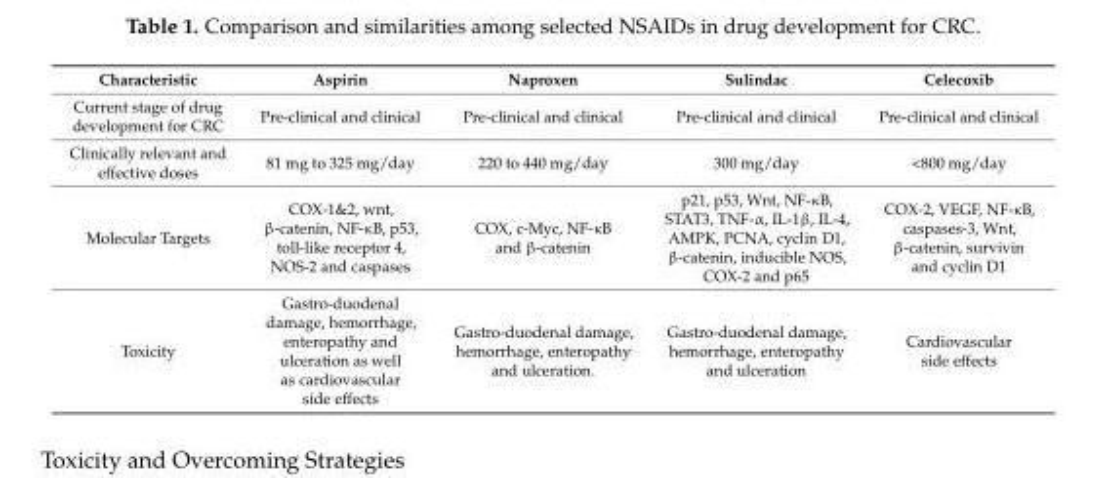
<table><thead><tr><td>Characteristic</td><td>Aspirin</td><td>Naproxen</td><td>Sulindac</td><td>Celecoxib</td></tr></thead><tbody><tr><td>Current stage of drug development for CRC</td><td>Pre-clinical and clinical</td><td>Pre-clinical and clinical</td><td>Pre-clinical and clinical</td><td>Pre-clinical and clinical</td></tr><tr><td>Clinically relevant and effective doses</td><td>81 mg to 325 mg/day</td><td>220 to 440 mg/day</td><td>300 mg/day</td><td>&lt;800 mg/day</td></tr><tr><td>Molecular Targets</td><td>COX-1&amp;2, wnt, β-catenin, NF-κB, p53, toll-like receptor 4, NOS-2 and caspases</td><td>COX, c-Myc, NF-κB and β-catenin</td><td>p21, p53, Wnt, NF-κB, STAT3, TNF-α, IL-1β, IL-4, AMPK, PCNA, cyclin D1, β-catenin, inducible NOS, COX-2 and p65</td><td>COX-2, VEGF, NF-κB, caspases-3, Wnt, β-catenin, survivin and cyclin D1</td></tr><tr><td>Toxicity</td><td>Gastro-duodenal damage, hemorrhage, enteropathy and ulceration as well as cardiovascular side effects</td><td>Gastro-duodenal damage, hemorrhage, enteropathy and ulceration.</td><td>Gastro-duodenal damage, hemorrhage, enteropathy and ulceration</td><td>Cardiovascular side effects</td></tr></tbody></table>